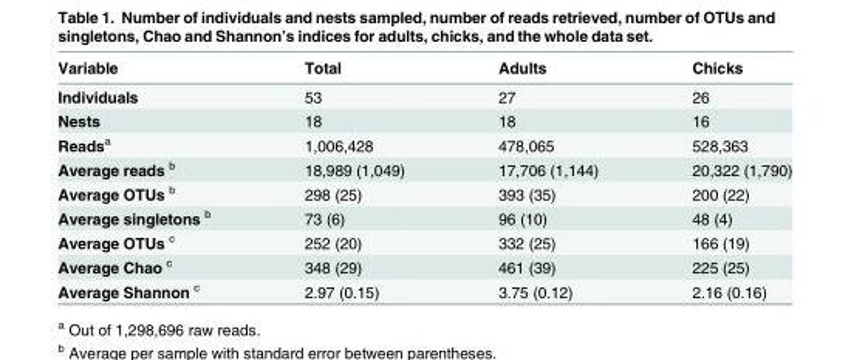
<table><thead><tr><td>Variable</td><td>Total</td><td>Adults</td><td>Chicks</td></tr></thead><tbody><tr><td>Individuals</td><td>53</td><td>27</td><td>26</td></tr><tr><td>Nests</td><td>18</td><td>18</td><td>16</td></tr><tr><td>Reads<sup>a</sup></td><td>1,006,428</td><td>478,065</td><td>528,363</td></tr><tr><td>Average reads <sup>b</sup></td><td>18,989 (1,049)</td><td>17,706 (1,144)</td><td>20,322 (1,790)</td></tr><tr><td>Average OTUs <sup>b</sup></td><td>298 (25)</td><td>393 (35)</td><td>200 (22)</td></tr><tr><td>Average singletons <sup>b</sup></td><td>73 (6)</td><td>96 (10)</td><td>48 (4)</td></tr><tr><td>Average OTUs <sup>c</sup></td><td>252 (20)</td><td>332 (25)</td><td>166 (19)</td></tr><tr><td>Average Chao <sup>c</sup></td><td>348 (29)</td><td>461 (39)</td><td>225 (25)</td></tr><tr><td>Average Shannon <sup>c</sup></td><td>2.97 (0.15)</td><td>3.75 (0.12)</td><td>2.16 (0.16)</td></tr></tbody></table>